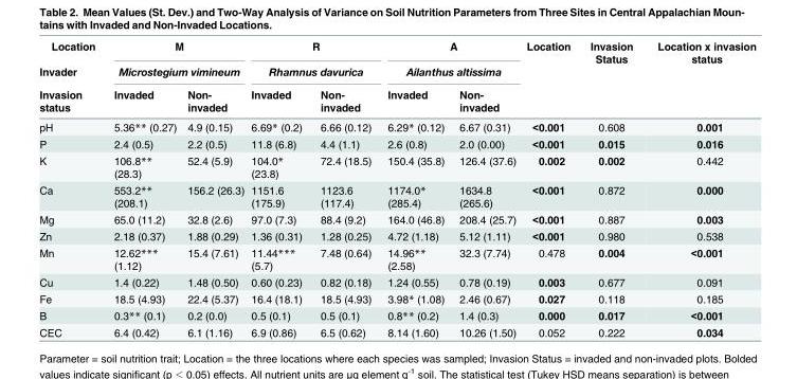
<table><thead><tr><td rowspan="3">Location Invader Invasion status</td><td rowspan="2" colspan="2">M Microstegium vimineum</td><td rowspan="2" colspan="2">R Rhamnus davurica</td><td rowspan="2" colspan="2">A Ailanthus altissima</td><td rowspan="3">Location</td><td rowspan="3">Invasion Status</td><td rowspan="3">Location x invasion status</td></tr><tr></tr><tr><td>Invaded</td><td>Non- invaded</td><td>Invaded</td><td>Non- invaded</td><td>Invaded</td><td>Non- invaded</td></tr></thead><tbody><tr><td>pH</td><td>5.36** (0.27)</td><td>4.9 (0.15)</td><td>6.69* (0.2)</td><td>6.66 (0.12)</td><td>6.29* (0.12)</td><td>6.67 (0.31)</td><td>&lt;0.001</td><td>0.608</td><td>0.001</td></tr><tr><td>P</td><td>2.4 (0.5)</td><td>2.2 (0.5)</td><td>11.8 (6.8)</td><td>4.4 (1.1)</td><td>2.6 (0.8)</td><td>2.0 (0.00)</td><td>&lt;0.001</td><td>0.015</td><td>0.016</td></tr><tr><td>K</td><td>106.8** (28.3)</td><td>52.4 (5.9)</td><td>104.0* (23.8)</td><td>72.4 (18.5)</td><td>150.4 (35.8)</td><td>126.4 (37.6)</td><td>0.002</td><td>0.002</td><td>0.442</td></tr><tr><td>Ca</td><td>553.2** (208.1)</td><td>156.2 (26.3)</td><td>1151.6 (175.9)</td><td>1123.6 (117.4)</td><td>1174.0* (285.4)</td><td>1634.8 (265.6)</td><td>&lt;0.001</td><td>0.872</td><td>0.000</td></tr><tr><td>Mg</td><td>65.0 (11.2)</td><td>32.8 (2.6)</td><td>97.0 (7.3)</td><td>88.4 (9.2)</td><td>164.0 (46.8)</td><td>208.4 (25.7)</td><td>&lt;0.001</td><td>0.887</td><td>0.003</td></tr><tr><td>Zn</td><td>2.18 (0.37)</td><td>1.88 (0.29)</td><td>1.36 (0.31)</td><td>1.28 (0.25)</td><td>4.72 (1.18)</td><td>5.12 (1.11)</td><td>&lt;0.001</td><td>0.980</td><td>0.538</td></tr><tr><td>Mn</td><td>12.62*** (1.12)</td><td>15.4 (7.61)</td><td>11.44*** (5.7)</td><td>7.48 (0.64)</td><td>14.96** (2.58)</td><td>32.3 (7.74)</td><td>0.478</td><td>0.004</td><td>&lt;0.001</td></tr><tr><td>Cu</td><td>1.4 (0.22)</td><td>1.48 (0.50)</td><td>0.60 (0.23)</td><td>0.82 (0.18)</td><td>1.24 (0.55)</td><td>0.78 (0.19)</td><td>0.003</td><td>0.677</td><td>0.091</td></tr><tr><td>Fe</td><td>18.5 (4.93)</td><td>22.4 (5.37)</td><td>16.4 (18.1)</td><td>18.5 (4.93)</td><td>3.98* (1.08)</td><td>2.46 (0.67)</td><td>0.027</td><td>0.118</td><td>0.185</td></tr><tr><td>B</td><td>0.3** (0.1)</td><td>0.2 (0.0)</td><td>0.5 (0.1)</td><td>0.5 (0.1)</td><td>0.8** (0.2)</td><td>1.4 (0.3)</td><td>0.000</td><td>0.017</td><td>&lt;0.001</td></tr><tr><td>CEC</td><td>6.4 (0.42)</td><td>6.1 (1.16)</td><td>6.9 (0.86)</td><td>6.5 (0.62)</td><td>8.14 (1.60)</td><td>10.26 (1.50)</td><td>0.052</td><td>0.222</td><td>0.034</td></tr></tbody></table>